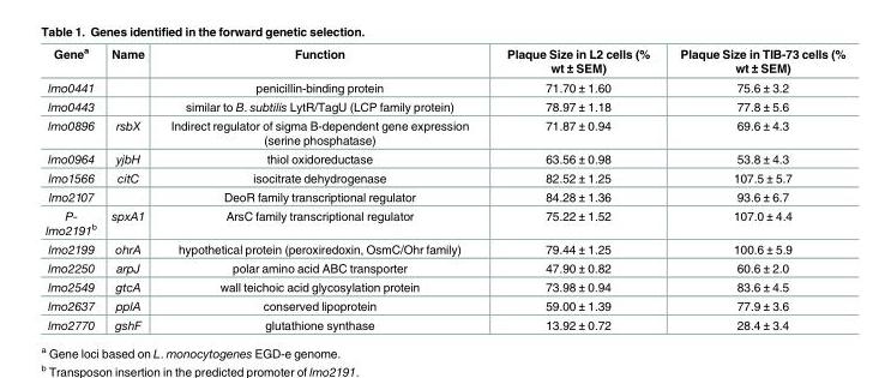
<table><thead><tr><td>Gene<sup>a</sup></td><td>Name</td><td>Function</td><td>Plaque Size in L2 cells (% wt ± SEM)</td><td>Plaque Size in TIB-73 cells (% wt ± SEM)</td></tr></thead><tbody><tr><td>lmo0441</td><td></td><td>penicillin-binding protein</td><td>71.70 ± 1.60</td><td>75.6 ± 3.2</td></tr><tr><td>lmo0443</td><td></td><td>similar to B. subtilis LytR/TagU (LCP family protein)</td><td>78.97 ± 1.18</td><td>77.8 ± 5.6</td></tr><tr><td>lmo0896</td><td>rsbX</td><td>Indirect regulator of sigma B-dependent gene expression (serine phosphatase)</td><td>71.87 ± 0.94</td><td>69.6 ± 4.3</td></tr><tr><td>lmo0964</td><td>yjbH</td><td>thiol oxidoreductase</td><td>63.56 ± 0.98</td><td>53.8 ± 4.3</td></tr><tr><td>lmo1566</td><td>citC</td><td>isocitrate dehydrogenase</td><td>82.52 ± 1.25</td><td>107.5 ± 5.7</td></tr><tr><td>lmo2107</td><td></td><td>DeoR family transcriptional regulator</td><td>84.28 ± 1.36</td><td>93.6 ± 6.7</td></tr><tr><td>P- lmo2191<sup>b</sup></td><td>spxA1</td><td>ArsC family transcriptional regulator</td><td>75.22 ± 1.52</td><td>107.0 ± 4.4</td></tr><tr><td>lmo2199</td><td>ohrA</td><td>hypothetical protein (peroxiredoxin, OsmC/Ohr family)</td><td>79.44 ± 1.25</td><td>100.6 ± 5.9</td></tr><tr><td>lmo2250</td><td>arpJ</td><td>polar amino acid ABC transporter</td><td>47.90 ± 0.82</td><td>60.6 ± 2.0</td></tr><tr><td>lmo2549</td><td>gtcA</td><td>wall teichoic acid glycosylation protein</td><td>73.98 ± 0.94</td><td>83.6 ± 4.5</td></tr><tr><td>lmo2637</td><td>pplA</td><td>conserved lipoprotein</td><td>59.00 ± 1.39</td><td>77.9 ± 3.6</td></tr><tr><td>lmo2770</td><td>gshF</td><td>glutathione synthase</td><td>13.92 ± 0.72</td><td>28.4 ± 3.4</td></tr></tbody></table>